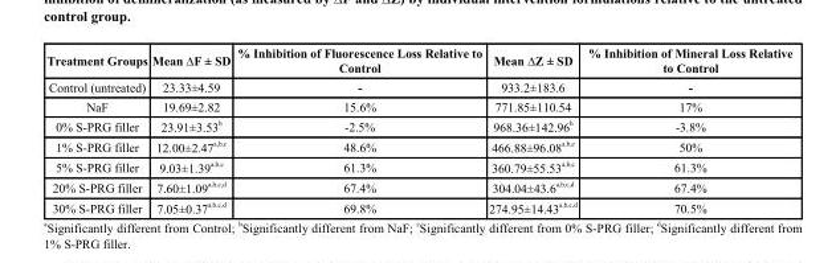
<table><thead><tr><td>Treatment Groups</td><td>Mean ∆F ± SD</td><td>% Inhibition of Fluorescence Loss Relative to Control</td><td>Mean ∆Z ± SD</td><td>% Inhibition of Mineral Loss Relative to Control</td></tr></thead><tbody><tr><td>Control (untreated)</td><td>23.33±4.59</td><td>-</td><td>933.2±183.6</td><td>-</td></tr><tr><td>NaF</td><td>19.69±2.82</td><td>15.6%</td><td>771.85±110.54</td><td>17%</td></tr><tr><td>0% S-PRG filler</td><td>23.91±3.53 <sup>b</sup></td><td>-2.5%</td><td>968.36±142.96 <sup>b</sup></td><td>-3.8%</td></tr><tr><td>1% S-PRG filler</td><td>12.00±2.47 <sup>a,b,c</sup></td><td>48.6%</td><td>466.88±96.08 <sup>a,b,c</sup></td><td>50%</td></tr><tr><td>5% S-PRG filler</td><td>9.03±1.39 <sup>a,b,c</sup></td><td>61.3%</td><td>360.79±55.53 <sup>a,b,c</sup></td><td>61.3%</td></tr><tr><td>20% S-PRG filler</td><td>7.60±1.09 <sup>a,b,c,d</sup></td><td>67.4%</td><td>304.04±43.6 <sup>a,b,c,d</sup></td><td>67.4%</td></tr><tr><td>30% S-PRG filler</td><td>7.05±0.37 <sup>a,b,c,d</sup></td><td>69.8%</td><td>274.95±14.43 <sup>a,b,c,d</sup></td><td>70.5%</td></tr></tbody></table>